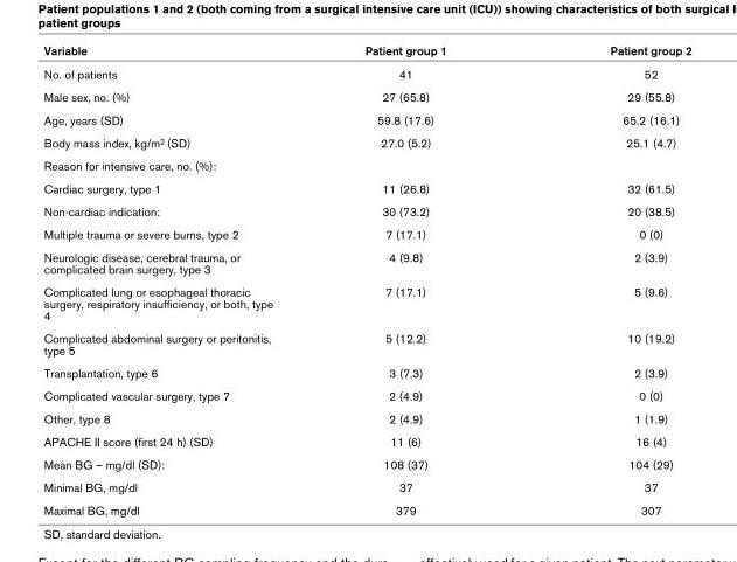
<table><thead><tr><td>Variable</td><td>Patient group 1</td><td>Patient group 2</td></tr></thead><tbody><tr><td>No. of patients</td><td>41</td><td>52</td></tr><tr><td>Male sex, no. (%)</td><td>27 (65.8)</td><td>29 (55.8)</td></tr><tr><td>Age, years (SD)</td><td>59.8 (17.6)</td><td>65.2 (16.1)</td></tr><tr><td>Body mass index, kg/m<sup>2</sup> (SD)</td><td>27.0 (5.2)</td><td>25.1 (4.7)</td></tr><tr><td colspan="3">Reason for intensive care, no. (%):</td></tr><tr><td>Cardiac surgery, type 1</td><td>11 (26.8)</td><td>32 (61.5)</td></tr><tr><td>Non-cardiac indication:</td><td>30 (73.2)</td><td>20 (38.5)</td></tr><tr><td>Multiple trauma or severe burns, type 2</td><td>7 (17.1)</td><td>0 (0)</td></tr><tr><td>Neurologic disease, cerebral trauma, or complicated brain surgery, type 3</td><td>4 (9.8)</td><td>2 (3.9)</td></tr><tr><td>Complicated lung or esophageal thoracic surgery, respiratory insufficiency, or both, type 4</td><td>7 (17.1)</td><td>5 (9.6)</td></tr><tr><td>Complicated abdominal surgery or peritonitis, type 5</td><td>5 (12.2)</td><td>10 (19.2)</td></tr><tr><td>Transplantation, type 6</td><td>3 (7.3)</td><td>2 (3.9)</td></tr><tr><td>Complicated vascular surgery, type 7</td><td>2 (4.9)</td><td>0 (0)</td></tr><tr><td>Other, type 8</td><td>2 (4.9)</td><td>1 (1.9)</td></tr><tr><td>APACHE II score (first 24 h) (SD)</td><td>11 (6)</td><td>16 (4)</td></tr><tr><td>Mean BG – mg/dl (SD):</td><td>108 (37)</td><td>104 (29)</td></tr><tr><td>Minimal BG, mg/dl</td><td>37</td><td>37</td></tr><tr><td>Maximal BG, mg/dl</td><td>379</td><td>307</td></tr></tbody></table>